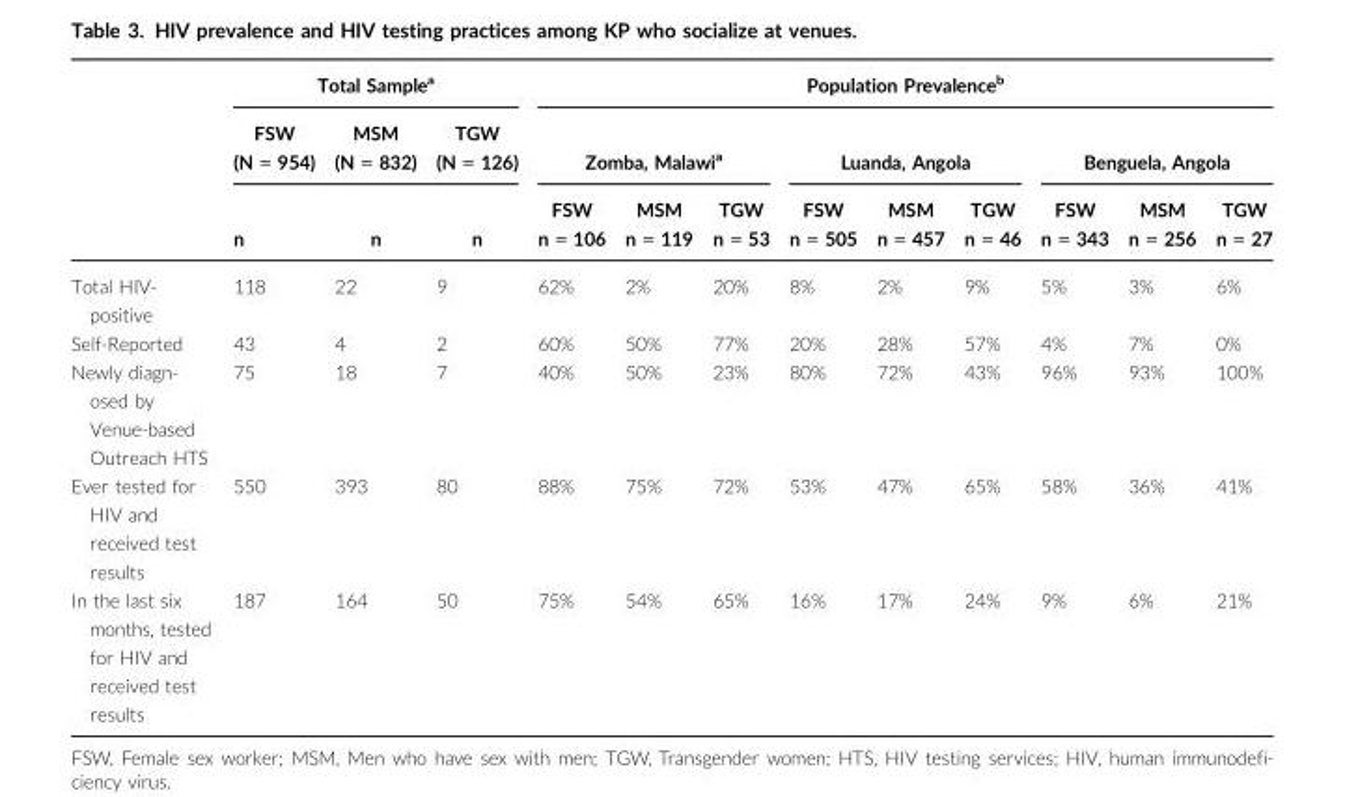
<table><thead><tr><td rowspan="3"></td><td colspan="3">Total Sample<sup>a</sup></td><td colspan="9">Population Prevalence<sup>b</sup></td></tr><tr><td rowspan="2">FSW (N = 954) n</td><td rowspan="2">MSM (N = 832) n</td><td rowspan="2">TGW (N = 126) n</td><td colspan="3">Zomba, Malawi<sup>a</sup></td><td colspan="3">Luanda, Angola</td><td colspan="3">Benguela, Angola</td></tr><tr><td>FSW n = 106</td><td>MSM n = 119</td><td>TGW n = 53</td><td>FSW n = 505</td><td>MSM n = 457</td><td>TGW n = 46</td><td>FSW n = 343</td><td>MSM n = 256</td><td>TGW n = 27</td></tr></thead><tbody><tr><td>Total HIV- positive</td><td>118</td><td>22</td><td>9</td><td>62%</td><td>2%</td><td>20%</td><td>8%</td><td>2%</td><td>9%</td><td>5%</td><td>3%</td><td>6%</td></tr><tr><td>Self-Reported</td><td>43</td><td>4</td><td>2</td><td>60%</td><td>50%</td><td>77%</td><td>20%</td><td>28%</td><td>57%</td><td>4%</td><td>7%</td><td>0%</td></tr><tr><td>Newly diagn- osed by Venue-based Outreach HTS</td><td>75</td><td>18</td><td>7</td><td>40%</td><td>50%</td><td>23%</td><td>80%</td><td>72%</td><td>43%</td><td>96%</td><td>93%</td><td>100%</td></tr><tr><td>Ever tested for HIV and received test results</td><td>550</td><td>393</td><td>80</td><td>88%</td><td>75%</td><td>72%</td><td>53%</td><td>47%</td><td>65%</td><td>58%</td><td>36%</td><td>41%</td></tr><tr><td>In the last six months, tested for HIV and received test results</td><td>187</td><td>164</td><td>50</td><td>75%</td><td>54%</td><td>65%</td><td>16%</td><td>17%</td><td>24%</td><td>9%</td><td>6%</td><td>21%</td></tr></tbody></table>